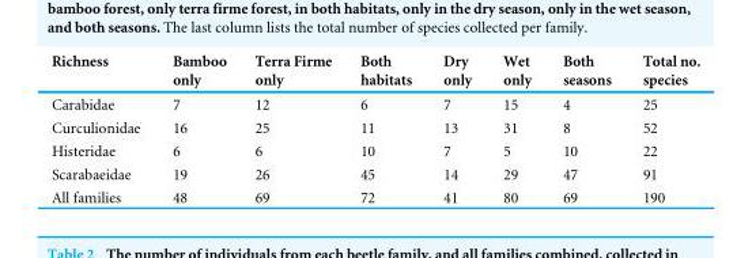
<table><thead><tr><td>Richness</td><td>Bamboo only</td><td>Terra Firme only</td><td>Both habitats</td><td>Dry only</td><td>Wet only</td><td>Both seasons</td><td>Total no. species</td></tr></thead><tbody><tr><td>Carabidae</td><td>7</td><td>12</td><td>6</td><td>7</td><td>15</td><td>4</td><td>25</td></tr><tr><td>Curculionidae</td><td>16</td><td>25</td><td>11</td><td>13</td><td>31</td><td>8</td><td>52</td></tr><tr><td>Histeridae</td><td>6</td><td>6</td><td>10</td><td>7</td><td>5</td><td>10</td><td>22</td></tr><tr><td>Scarabaeidae</td><td>19</td><td>26</td><td>45</td><td>14</td><td>29</td><td>47</td><td>91</td></tr><tr><td>All families</td><td>48</td><td>69</td><td>72</td><td>41</td><td>80</td><td>69</td><td>190</td></tr></tbody></table>